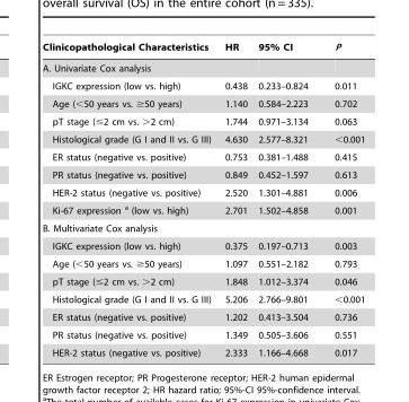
<table><thead><tr><td>Clinicopathological Characteristics</td><td>HR</td><td>95% CI</td><td>P</td></tr></thead><tbody><tr><td colspan="4">A. Univariate Cox analysis</td></tr><tr><td>IGKC expression (low vs. high)</td><td>0.438</td><td>0.233–0.824</td><td>0.011</td></tr><tr><td>Age (&lt;50 years vs. ≥50 years)</td><td>1.140</td><td>0.584–2.223</td><td>0.702</td></tr><tr><td>pT stage (≤2 cm vs. &gt;2 cm)</td><td>1.744</td><td>0.971–3.134</td><td>0.063</td></tr><tr><td>Histological grade (G I and II vs. G III)</td><td>4.630</td><td>2.577–8.321</td><td>&lt;0.001</td></tr><tr><td>ER status (negative vs. positive)</td><td>0.753</td><td>0.381–1.488</td><td>0.415</td></tr><tr><td>PR status (negative vs. positive)</td><td>0.849</td><td>0.452–1.597</td><td>0.613</td></tr><tr><td>HER-2 status (negative vs. positive)</td><td>2.520</td><td>1.301–4.881</td><td>0.006</td></tr><tr><td>Ki-67 expression a (low vs. high)</td><td>2.701</td><td>1.502–4.858</td><td>0.001</td></tr><tr><td colspan="4">B. Multivariate Cox analysis</td></tr><tr><td>IGKC expression (low vs. high)</td><td>0.375</td><td>0.197–0.713</td><td>0.003</td></tr><tr><td>Age (&lt;50 years vs. ≥50 years)</td><td>1.097</td><td>0.551–2.182</td><td>0.793</td></tr><tr><td>pT stage (≤2 cm vs. &gt;2 cm)</td><td>1.848</td><td>1.012–3.374</td><td>0.046</td></tr><tr><td>Histological grade (G I and II vs. G III)</td><td>5.206</td><td>2.766–9.801</td><td>&lt;0.001</td></tr><tr><td>ER status (negative vs. positive)</td><td>1.202</td><td>0.413–3.504</td><td>0.736</td></tr><tr><td>PR status (negative vs. positive)</td><td>1.349</td><td>0.505–3.606</td><td>0.551</td></tr><tr><td>HER-2 status (negative vs. positive)</td><td>2.333</td><td>1.166–4.668</td><td>0.017</td></tr></tbody></table>